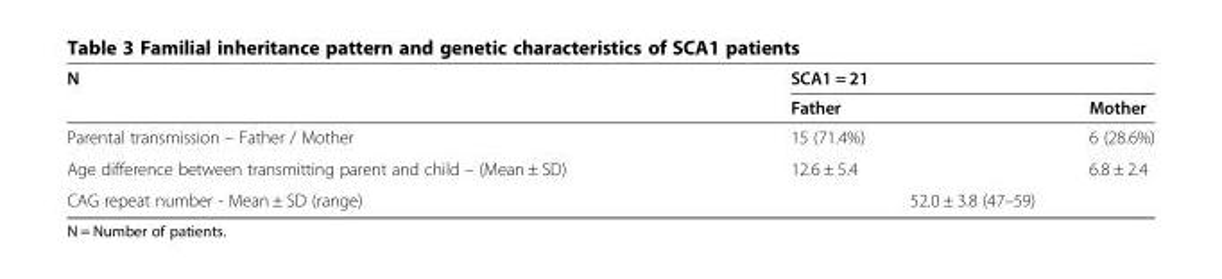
<table><thead><tr><td rowspan="2">N</td><td colspan="2">SCA1 = 21</td></tr><tr><td>Father</td><td>Mother</td></tr></thead><tbody><tr><td>Parental transmission – Father / Mother</td><td>15 (71.4%)</td><td>6 (28.6%)</td></tr><tr><td>Age difference between transmitting parent and child – (Mean ± SD)</td><td>12.6 ± 5.4</td><td>6.8 ± 2.4</td></tr><tr><td>CAG repeat number - Mean ± SD (range)</td><td colspan="2">52.0 ± 3.8 (47–59)</td></tr></tbody></table>